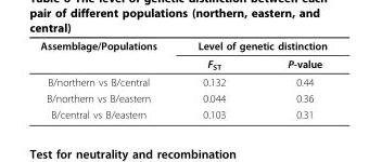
<table><thead><tr><td rowspan="2">Assemblage/Populations</td><td colspan="2">Level of genetic distinction</td></tr><tr><td>F<sub>ST</sub></td><td>P-value</td></tr></thead><tbody><tr><td>B/northern vs B/central</td><td>0.132</td><td>0.44</td></tr><tr><td>B/northern vs B/eastern</td><td>0.044</td><td>0.36</td></tr><tr><td>B/central vs B/eastern</td><td>0.103</td><td>0.31</td></tr></tbody></table>